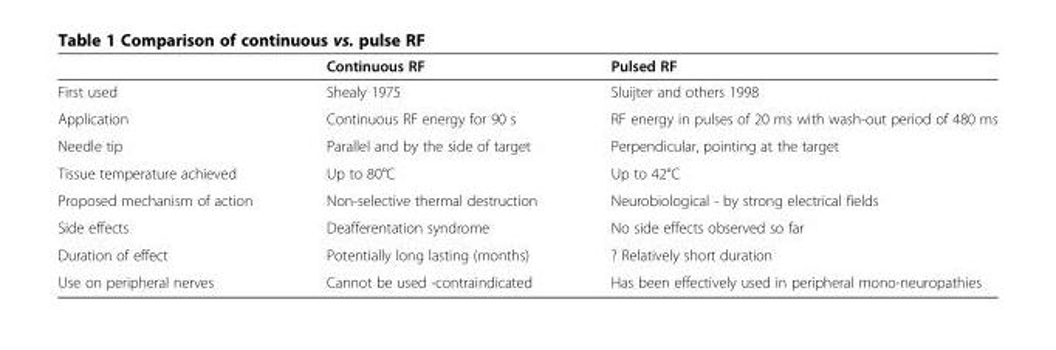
<table><thead><tr><td></td><td>Continuous RF</td><td>Pulsed RF</td></tr></thead><tbody><tr><td>First used</td><td>Shealy 1975</td><td>Sluijter and others 1998</td></tr><tr><td>Application</td><td>Continuous RF energy for 90 s</td><td>RF energy in pulses of 20 ms with wash-out period of 480 ms</td></tr><tr><td>Needle tip</td><td>Parallel and by the side of target</td><td>Perpendicular, pointing at the target</td></tr><tr><td>Tissue temperature achieved</td><td>Up to 80°C</td><td>Up to 42°C</td></tr><tr><td>Proposed mechanism of action</td><td>Non-selective thermal destruction</td><td>Neurobiological - by strong electrical fields</td></tr><tr><td>Side effects</td><td>Deafferentation syndrome</td><td>No side effects observed so far</td></tr><tr><td>Duration of effect</td><td>Potentially long lasting (months)</td><td>? Relatively short duration</td></tr><tr><td>Use on peripheral nerves</td><td>Cannot be used -contraindicated</td><td>Has been effectively used in peripheral mono-neuropathies</td></tr></tbody></table>